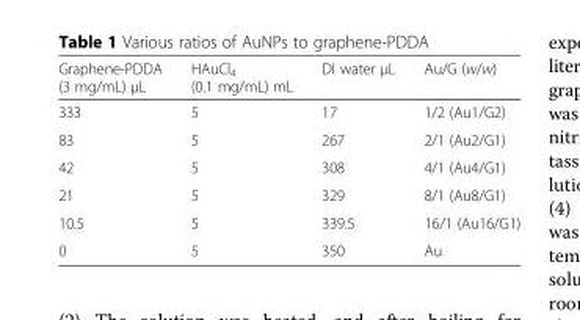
<table><thead><tr><td>Graphene-PDDA (3 mg/mL) μL</td><td>HAuCl<sub>4</sub> (0.1 mg/mL) mL</td><td>DI water μL</td><td>Au/G (w/w)</td></tr></thead><tbody><tr><td>333</td><td>5</td><td>17</td><td>1/2 (Au1/G2)</td></tr><tr><td>83</td><td>5</td><td>267</td><td>2/1 (Au2/G1)</td></tr><tr><td>42</td><td>5</td><td>308</td><td>4/1 (Au4/G1)</td></tr><tr><td>21</td><td>5</td><td>329</td><td>8/1 (Au8/G1)</td></tr><tr><td>10.5</td><td>5</td><td>339.5</td><td>16/1 (Au16/G1)</td></tr><tr><td>0</td><td>5</td><td>350</td><td>Au</td></tr></tbody></table>